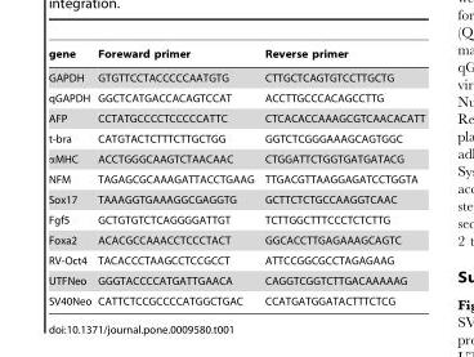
<table><thead><tr><td>gene</td><td>Foreward primer</td><td>Reverse primer</td></tr></thead><tbody><tr><td>GAPDH</td><td>GTGTTCCTACCCCCAATGTG</td><td>CTTGCTCAGTGTCCTTGCTG</td></tr><tr><td>qGAPDH</td><td>GGCTCATGACCACAGTCCAT</td><td>ACCTTGCCCACAGCCTTG</td></tr><tr><td>AFP</td><td>CCTATGCCCCTCCCCCATTC</td><td>CTCACACCAAAGCGTCAACACATT</td></tr><tr><td>t-bra</td><td>CATGTACTCTTTCTTGCTGG</td><td>GGTCTCGGGAAAGCAGTGGC</td></tr><tr><td>αMHC</td><td>ACCTGGGCAAGTCTAACAAC</td><td>CTGGATTCTGGTGATGATACG</td></tr><tr><td>NFM</td><td>TAGAGCGCAAAGATTACCTGAAG</td><td>TTGACGTTAAGGAGATCCTGGTA</td></tr><tr><td>Sox17</td><td>TAAAGGTGAAAGGCGAGGTG</td><td>GCTTCTCTGCCAAGGTCAAC</td></tr><tr><td>Fgf5</td><td>GCTGTGTCTCAGGGGATTGT</td><td>TCTTGGCTTTCCCTCTCTTG</td></tr><tr><td>Foxa2</td><td>ACACGCCAAACCTCCCTACT</td><td>GGCACCTTGAGAAAGCAGTC</td></tr><tr><td>RV-Oct4</td><td>TACACCCTAAGCCTCCGCCT</td><td>ATTCCGGCGCCTAGAGAAG</td></tr><tr><td>UTFNeo</td><td>GGGTACCCCATGATTGAACA</td><td>CAGGTCGGTCTTGACAAAAAG</td></tr><tr><td>SV40Neo</td><td>CATTCTCCGCCCCATGGCTGAC</td><td>CCATGATGGATACTTTCTCG</td></tr></tbody></table>